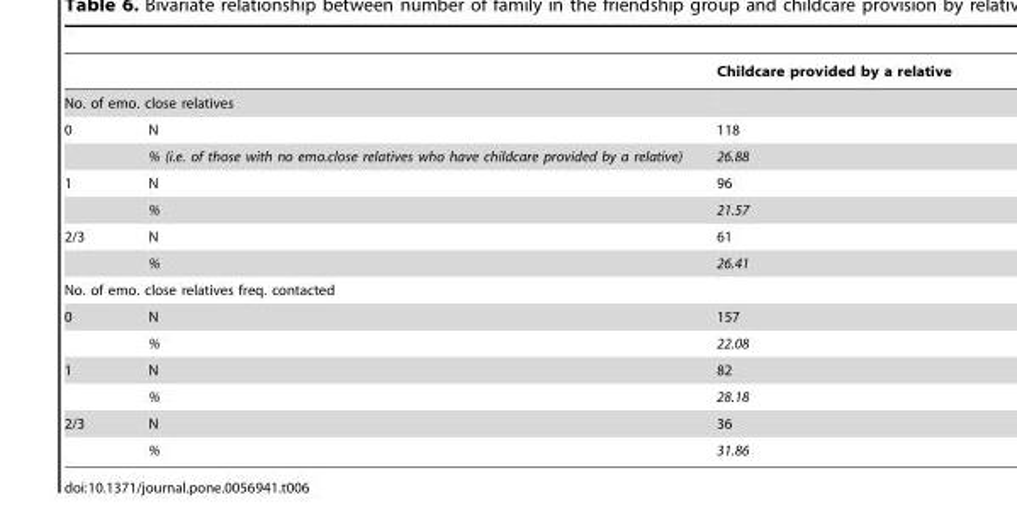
<table><thead><tr><td></td><td></td><td>Childcare provided by a relative</td></tr></thead><tbody><tr><td colspan="3">No. of emo. close relatives</td></tr><tr><td rowspan="2">0</td><td>N</td><td>118</td></tr><tr><td>% (i.e. of those with no emo.close relatives who have childcare provided by a relative)</td><td>26.88</td></tr><tr><td rowspan="2">1</td><td>N</td><td>96</td></tr><tr><td>%</td><td>21.57</td></tr><tr><td rowspan="2">2/3</td><td>N</td><td>61</td></tr><tr><td>%</td><td>26.41</td></tr><tr><td colspan="3">No. of emo. close relatives freq. contacted</td></tr><tr><td rowspan="2">0</td><td>N</td><td>157</td></tr><tr><td>%</td><td>22.08</td></tr><tr><td rowspan="2">1</td><td>N</td><td>82</td></tr><tr><td>%</td><td>28.18</td></tr><tr><td rowspan="2">2/3</td><td>N</td><td>36</td></tr><tr><td>%</td><td>31.86</td></tr></tbody></table>